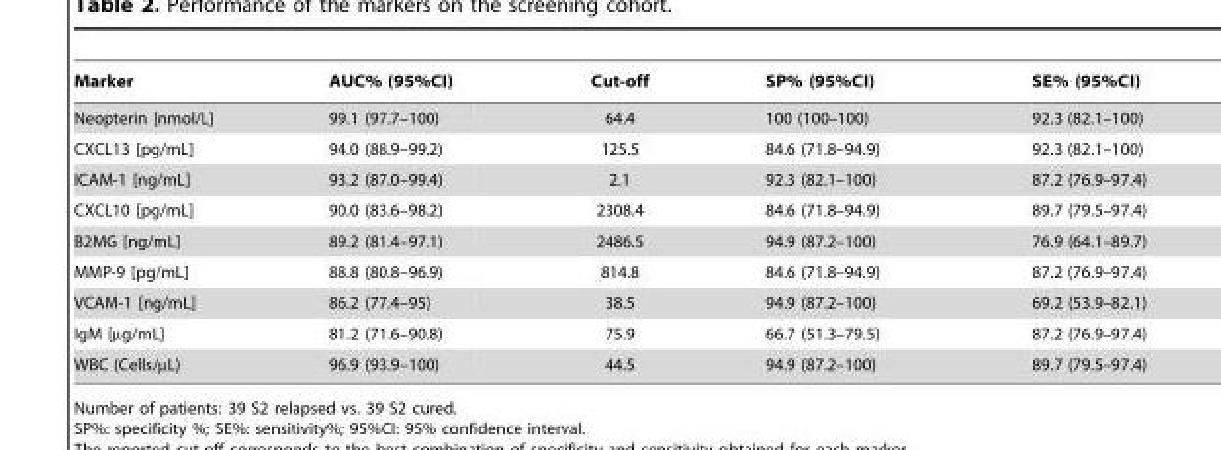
<table><thead><tr><td>Marker</td><td>AUC% (95%CI)</td><td>Cut-off</td><td>SP% (95%CI)</td><td>SE% (95%CI)</td></tr></thead><tbody><tr><td>Neopterin [nmol/L]</td><td>99.1 (97.7–100)</td><td>64.4</td><td>100 (100–100)</td><td>92.3 (82.1–100)</td></tr><tr><td>CXCL13 [pg/mL]</td><td>94.0 (88.9–99.2)</td><td>125.5</td><td>84.6 (71.8–94.9)</td><td>92.3 (82.1–100)</td></tr><tr><td>ICAM-1 [ng/mL]</td><td>93.2 (87.0–99.4)</td><td>2.1</td><td>92.3 (82.1–100)</td><td>87.2 (76.9–97.4)</td></tr><tr><td>CXCL10 [pg/mL]</td><td>90.0 (83.6–98.2)</td><td>2308.4</td><td>84.6 (71.8–94.9)</td><td>89.7 (79.5–97.4)</td></tr><tr><td>B2MG [ng/mL]</td><td>89.2 (81.4–97.1)</td><td>2486.5</td><td>94.9 (87.2–100)</td><td>76.9 (64.1–89.7)</td></tr><tr><td>MMP-9 [pg/mL]</td><td>88.8 (80.8–96.9)</td><td>814.8</td><td>84.6 (71.8–94.9)</td><td>87.2 (76.9–97.4)</td></tr><tr><td>VCAM-1 [ng/mL]</td><td>86.2 (77.4–95)</td><td>38.5</td><td>94.9 (87.2–100)</td><td>69.2 (53.9–82.1)</td></tr><tr><td>IgM [µg/mL]</td><td>81.2 (71.6–90.8)</td><td>75.9</td><td>66.7 (51.3–79.5)</td><td>87.2 (76.9–97.4)</td></tr><tr><td>WBC (Cells/µL)</td><td>96.9 (93.9–100)</td><td>44.5</td><td>94.9 (87.2–100)</td><td>89.7 (79.5–97.4)</td></tr></tbody></table>